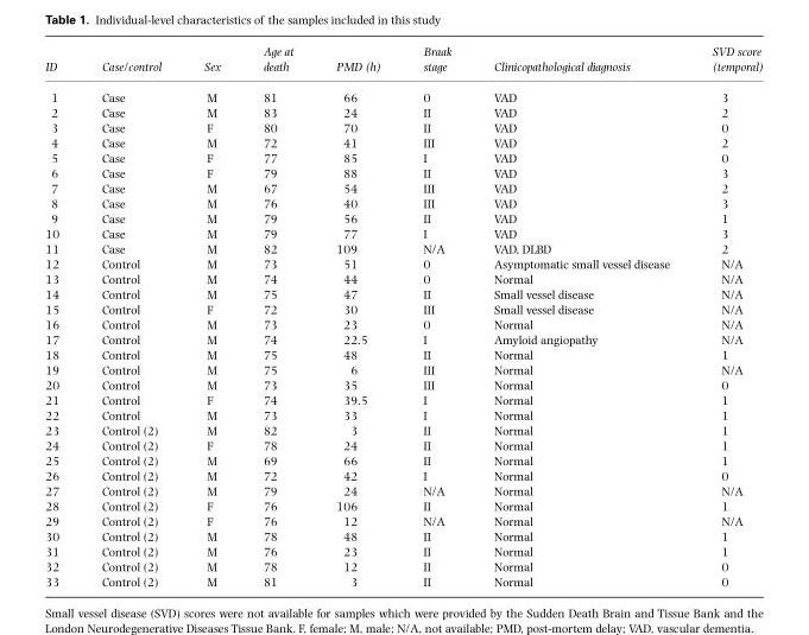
<table><thead><tr><td>ID</td><td>Case/control</td><td>Sex</td><td>Age at death</td><td>PMD (h)</td><td>Braak stage</td><td>Clinicopathological diagnosis</td><td>SVD score (temporal)</td></tr></thead><tbody><tr><td>1</td><td>Case</td><td>M</td><td>81</td><td>66</td><td>0</td><td>VAD</td><td>3</td></tr><tr><td>2</td><td>Case</td><td>M</td><td>83</td><td>24</td><td>II</td><td>VAD</td><td>2</td></tr><tr><td>3</td><td>Case</td><td>F</td><td>80</td><td>70</td><td>II</td><td>VAD</td><td>0</td></tr><tr><td>4</td><td>Case</td><td>M</td><td>72</td><td>41</td><td>III</td><td>VAD</td><td>2</td></tr><tr><td>5</td><td>Case</td><td>F</td><td>77</td><td>85</td><td>I</td><td>VAD</td><td>0</td></tr><tr><td>6</td><td>Case</td><td>F</td><td>79</td><td>88</td><td>II</td><td>VAD</td><td>3</td></tr><tr><td>7</td><td>Case</td><td>M</td><td>67</td><td>54</td><td>III</td><td>VAD</td><td>2</td></tr><tr><td>8</td><td>Case</td><td>M</td><td>76</td><td>40</td><td>III</td><td>VAD</td><td>3</td></tr><tr><td>9</td><td>Case</td><td>M</td><td>79</td><td>56</td><td>II</td><td>VAD</td><td>1</td></tr><tr><td>10</td><td>Case</td><td>M</td><td>79</td><td>77</td><td>I</td><td>VAD</td><td>3</td></tr><tr><td>11</td><td>Case</td><td>M</td><td>82</td><td>109</td><td>N/A</td><td>VAD, DLBD</td><td>2</td></tr><tr><td>12</td><td>Control</td><td>M</td><td>73</td><td>51</td><td>0</td><td>Asymptomatic small vessel disease</td><td>N/A</td></tr><tr><td>13</td><td>Control</td><td>M</td><td>74</td><td>44</td><td>0</td><td>Normal</td><td>N/A</td></tr><tr><td>14</td><td>Control</td><td>M</td><td>75</td><td>47</td><td>II</td><td>Small vessel disease</td><td>N/A</td></tr><tr><td>15</td><td>Control</td><td>F</td><td>72</td><td>30</td><td>III</td><td>Small vessel disease</td><td>N/A</td></tr><tr><td>16</td><td>Control</td><td>M</td><td>73</td><td>23</td><td>0</td><td>Normal</td><td>N/A</td></tr><tr><td>17</td><td>Control</td><td>M</td><td>74</td><td>22.5</td><td>I</td><td>Amyloid angiopathy</td><td>N/A</td></tr><tr><td>18</td><td>Control</td><td>M</td><td>75</td><td>48</td><td>II</td><td>Normal</td><td>1</td></tr><tr><td>19</td><td>Control</td><td>M</td><td>75</td><td>6</td><td>III</td><td>Normal</td><td>N/A</td></tr><tr><td>20</td><td>Control</td><td>M</td><td>73</td><td>35</td><td>III</td><td>Normal</td><td>0</td></tr><tr><td>21</td><td>Control</td><td>F</td><td>74</td><td>39.5</td><td>I</td><td>Normal</td><td>1</td></tr><tr><td>22</td><td>Control</td><td>M</td><td>73</td><td>33</td><td>I</td><td>Normal</td><td>1</td></tr><tr><td>23</td><td>Control (2)</td><td>M</td><td>82</td><td>3</td><td>II</td><td>Normal</td><td>1</td></tr><tr><td>24</td><td>Control (2)</td><td>F</td><td>78</td><td>24</td><td>II</td><td>Normal</td><td>1</td></tr><tr><td>25</td><td>Control (2)</td><td>M</td><td>69</td><td>66</td><td>II</td><td>Normal</td><td>1</td></tr><tr><td>26</td><td>Control (2)</td><td>M</td><td>72</td><td>42</td><td>I</td><td>Normal</td><td>0</td></tr><tr><td>27</td><td>Control (2)</td><td>M</td><td>79</td><td>24</td><td>N/A</td><td>Normal</td><td>N/A</td></tr><tr><td>28</td><td>Control (2)</td><td>F</td><td>76</td><td>106</td><td>II</td><td>Normal</td><td>1</td></tr><tr><td>29</td><td>Control (2)</td><td>F</td><td>76</td><td>12</td><td>N/A</td><td>Normal</td><td>N/A</td></tr><tr><td>30</td><td>Control (2)</td><td>M</td><td>78</td><td>48</td><td>II</td><td>Normal</td><td>1</td></tr><tr><td>31</td><td>Control (2)</td><td>M</td><td>76</td><td>23</td><td>II</td><td>Normal</td><td>1</td></tr><tr><td>32</td><td>Control (2)</td><td>M</td><td>78</td><td>12</td><td>II</td><td>Normal</td><td>0</td></tr><tr><td>33</td><td>Control (2)</td><td>M</td><td>81</td><td>3</td><td>II</td><td>Normal</td><td>0</td></tr></tbody></table>